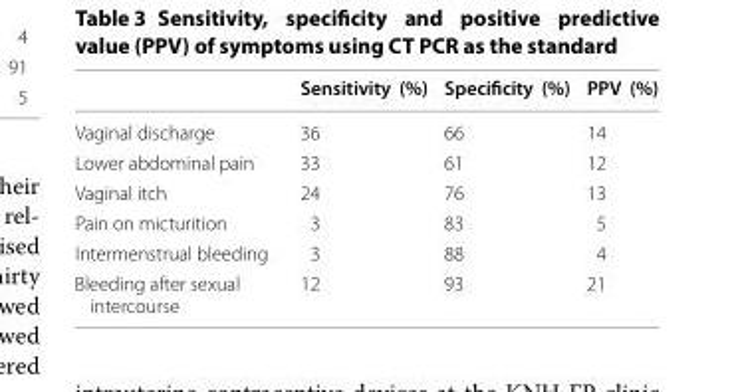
<table><thead><tr><td></td><td>Sensitivity (%)</td><td>Specificity (%)</td><td>PPV (%)</td></tr></thead><tbody><tr><td>Vaginal discharge</td><td>36</td><td>66</td><td>14</td></tr><tr><td>Lower abdominal pain</td><td>33</td><td>61</td><td>12</td></tr><tr><td>Vaginal itch</td><td>24</td><td>76</td><td>13</td></tr><tr><td>Pain on micturition</td><td>3</td><td>83</td><td>5</td></tr><tr><td>Intermenstrual bleeding</td><td>3</td><td>88</td><td>4</td></tr><tr><td>Bleeding after sexual intercourse</td><td>12</td><td>93</td><td>21</td></tr></tbody></table>